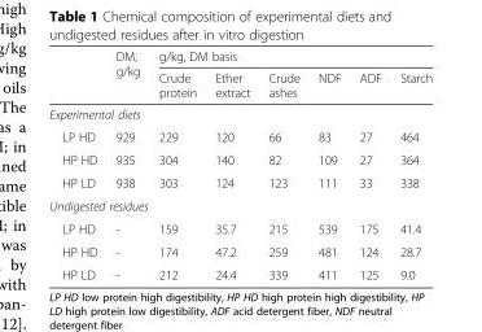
<table><thead><tr><td rowspan="2"></td><td rowspan="2">DM, g/kg</td><td colspan="6">g/kg, DM basis</td></tr><tr><td>Crude protein</td><td>Ether extract</td><td>Crude ashes</td><td>NDF</td><td>ADF</td><td>Starch</td></tr></thead><tbody><tr><td colspan="8">Experimental diets</td></tr><tr><td>LP HD</td><td>929</td><td>229</td><td>120</td><td>66</td><td>83</td><td>27</td><td>464</td></tr><tr><td>HP HD</td><td>935</td><td>304</td><td>140</td><td>82</td><td>109</td><td>27</td><td>364</td></tr><tr><td>HP LD</td><td>938</td><td>303</td><td>124</td><td>123</td><td>111</td><td>33</td><td>338</td></tr><tr><td colspan="8">Undigested residues</td></tr><tr><td>LP HD</td><td>-</td><td>159</td><td>35.7</td><td>215</td><td>539</td><td>175</td><td>41.4</td></tr><tr><td>HP HD</td><td>-</td><td>174</td><td>47.2</td><td>259</td><td>481</td><td>124</td><td>28.7</td></tr><tr><td>HP LD</td><td>-</td><td>212</td><td>24.4</td><td>339</td><td>411</td><td>125</td><td>9.0</td></tr></tbody></table>